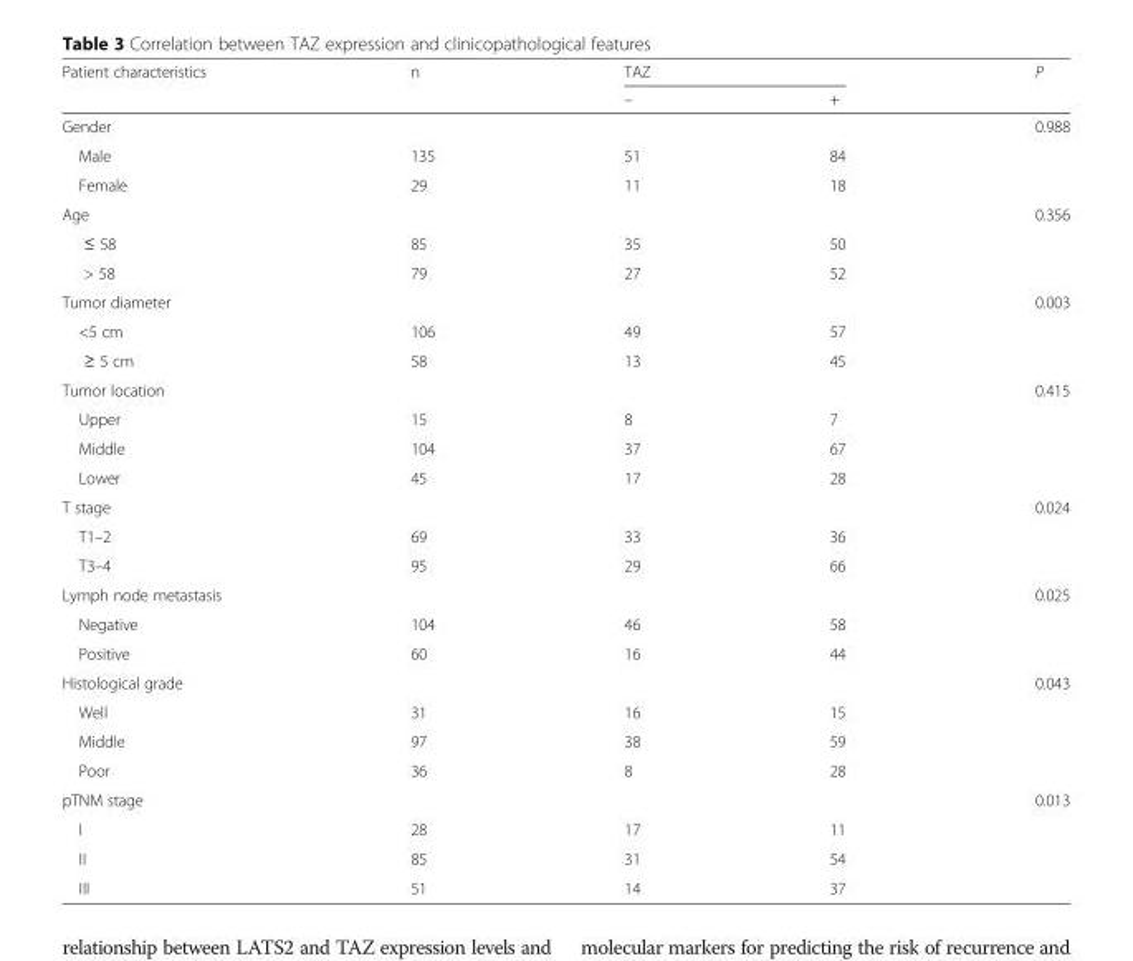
<table><thead><tr><td rowspan="2">Patient characteristics</td><td rowspan="2">n</td><td colspan="2">TAZ</td><td rowspan="2">P</td></tr><tr><td>–</td><td>+</td></tr></thead><tbody><tr><td>Gender</td><td></td><td></td><td></td><td>0.988</td></tr><tr><td>Male</td><td>135</td><td>51</td><td>84</td><td></td></tr><tr><td>Female</td><td>29</td><td>11</td><td>18</td><td></td></tr><tr><td>Age</td><td></td><td></td><td></td><td>0.356</td></tr><tr><td>≤ 58</td><td>85</td><td>35</td><td>50</td><td></td></tr><tr><td>&gt; 58</td><td>79</td><td>27</td><td>52</td><td></td></tr><tr><td>Tumor diameter</td><td></td><td></td><td></td><td>0.003</td></tr><tr><td>&lt;5 cm</td><td>106</td><td>49</td><td>57</td><td></td></tr><tr><td>≥ 5 cm</td><td>58</td><td>13</td><td>45</td><td></td></tr><tr><td>Tumor location</td><td></td><td></td><td></td><td>0.415</td></tr><tr><td>Upper</td><td>15</td><td>8</td><td>7</td><td></td></tr><tr><td>Middle</td><td>104</td><td>37</td><td>67</td><td></td></tr><tr><td>Lower</td><td>45</td><td>17</td><td>28</td><td></td></tr><tr><td>T stage</td><td></td><td></td><td></td><td>0.024</td></tr><tr><td>T1–2</td><td>69</td><td>33</td><td>36</td><td></td></tr><tr><td>T3–4</td><td>95</td><td>29</td><td>66</td><td></td></tr><tr><td>Lymph node metastasis</td><td></td><td></td><td></td><td>0.025</td></tr><tr><td>Negative</td><td>104</td><td>46</td><td>58</td><td></td></tr><tr><td>Positive</td><td>60</td><td>16</td><td>44</td><td></td></tr><tr><td>Histological grade</td><td></td><td></td><td></td><td>0.043</td></tr><tr><td>Well</td><td>31</td><td>16</td><td>15</td><td></td></tr><tr><td>Middle</td><td>97</td><td>38</td><td>59</td><td></td></tr><tr><td>Poor</td><td>36</td><td>8</td><td>28</td><td></td></tr><tr><td>pTNM stage</td><td></td><td></td><td></td><td>0.013</td></tr><tr><td>I</td><td>28</td><td>17</td><td>11</td><td></td></tr><tr><td>II</td><td>85</td><td>31</td><td>54</td><td></td></tr><tr><td>III</td><td>51</td><td>14</td><td>37</td><td></td></tr></tbody></table>